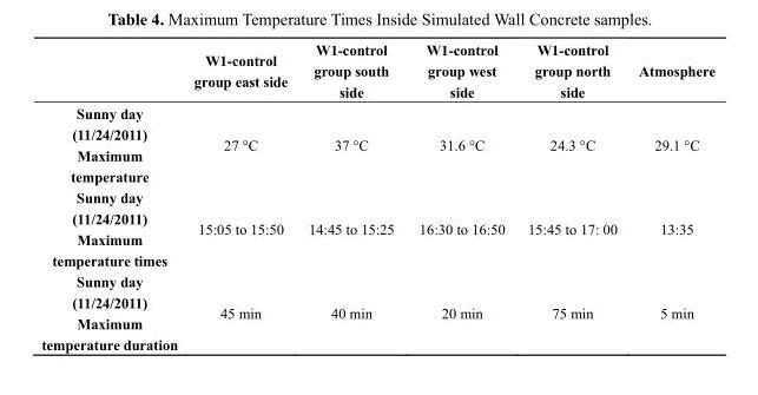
<table><thead><tr><td></td><td>W1-control group east side</td><td>W1-control group south side</td><td>W1-control group west side</td><td>W1-control group north side</td><td>Atmosphere</td></tr></thead><tbody><tr><td>Sunny day (11/24/2011) Maximum temperature</td><td>27 °C</td><td>37 °C</td><td>31.6 °C</td><td>24.3 °C</td><td>29.1 °C</td></tr><tr><td>Sunny day (11/24/2011) Maximum temperature times</td><td>15:05 to 15:50</td><td>14:45 to 15:25</td><td>16:30 to 16:50</td><td>15:45 to 17: 00</td><td>13:35</td></tr><tr><td>Sunny day (11/24/2011) Maximum temperature duration</td><td>45 min</td><td>40 min</td><td>20 min</td><td>75 min</td><td>5 min</td></tr></tbody></table>